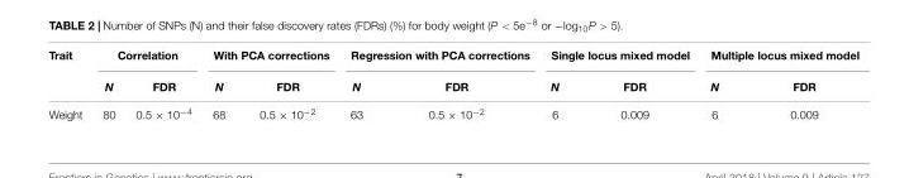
<table><thead><tr><td rowspan="2">Trait</td><td colspan="2">Correlation</td><td colspan="2">With PCA corrections</td><td colspan="2">Regression with PCA corrections</td><td colspan="2">Single locus mixed model</td><td colspan="2">Multiple locus mixed model</td></tr><tr><td>N</td><td>FDR</td><td>N</td><td>FDR</td><td>N</td><td>FDR</td><td>N</td><td>FDR</td><td>N</td><td>FDR</td></tr></thead><tbody><tr><td>Weight</td><td>80</td><td>0.5 × 10<sup>−4</sup></td><td>68</td><td>0.5 × 10<sup>−2</sup></td><td>63</td><td>0.5 × 10<sup>−2</sup></td><td>6</td><td>0.009</td><td>6</td><td>0.009</td></tr></tbody></table>